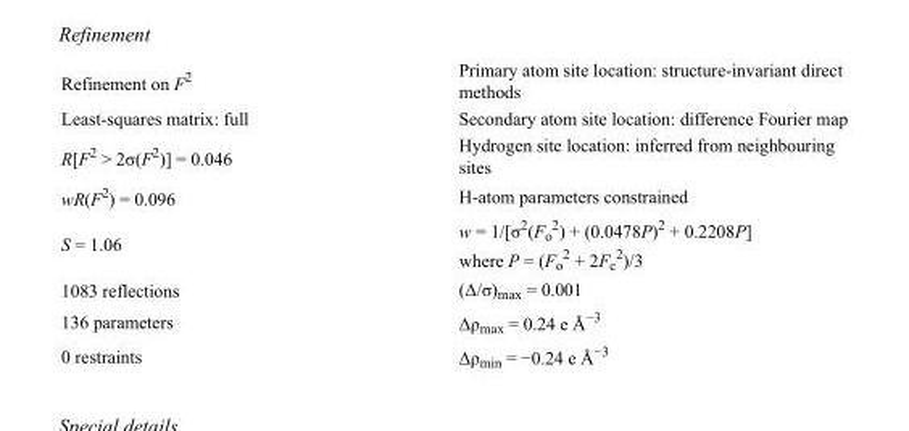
<table><tbody><tr><td>Refinement on F<sup>2</sup></td><td>Primary atom site location: structure-invariant direct methods</td></tr><tr><td>Least-squares matrix: full</td><td>Secondary atom site location: difference Fourier map</td></tr><tr><td>R[F<sup>2</sup> &gt; 2σ(F<sup>2</sup>)] = 0.046</td><td>Hydrogen site location: inferred from neighbouring sites</td></tr><tr><td>wR(F<sup>2</sup>) = 0.096</td><td>H-atom parameters constrained</td></tr><tr><td>S = 1.06</td><td>w = 1/[σ<sup>2</sup>(F<sub>o</sub> <sup>2</sup>) + (0.0478P)<sup>2</sup> + 0.2208P] where P = (F<sub>o</sub> <sup>2</sup> + 2F<sub>c</sub> <sup>2</sup>)/3</td></tr><tr><td>1083 reflections</td><td>(Δ/σ)<sub>max</sub> = 0.001</td></tr><tr><td>136 parameters</td><td>Δρ<sub>max</sub> = 0.24 e Å<sup>−3</sup></td></tr><tr><td>0 restraints</td><td>Δρ<sub>min</sub> = −0.24 e Å<sup>−3</sup></td></tr></tbody></table>